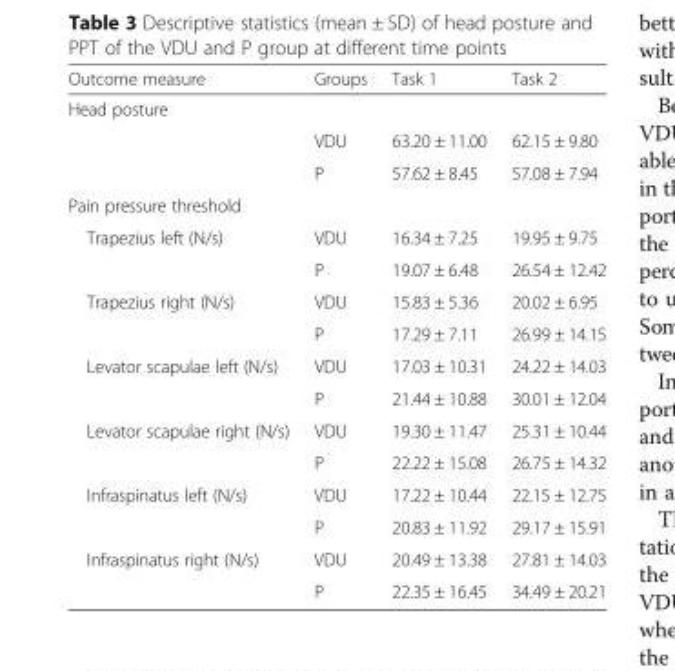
<table><thead><tr><td>Outcome measure</td><td>Groups</td><td>Task 1</td><td>Task 2</td></tr></thead><tbody><tr><td colspan="4">Head posture</td></tr><tr><td rowspan="2"></td><td>VDU</td><td>63.20 ± 11.00</td><td>62.15 ± 9.80</td></tr><tr><td>P</td><td>57.62 ± 8.45</td><td>57.08 ± 7.94</td></tr><tr><td colspan="4">Pain pressure threshold</td></tr><tr><td rowspan="2">Trapezius left (N/s)</td><td>VDU</td><td>16.34 ± 7.25</td><td>19.95 ± 9.75</td></tr><tr><td>P</td><td>19.07 ± 6.48</td><td>26.54 ± 12.42</td></tr><tr><td rowspan="2">Trapezius right (N/s)</td><td>VDU</td><td>15.83 ± 5.36</td><td>20.02 ± 6.95</td></tr><tr><td>P</td><td>17.29 ± 7.11</td><td>26.99 ± 14.15</td></tr><tr><td rowspan="2">Levator scapulae left (N/s)</td><td>VDU</td><td>17.03 ± 10.31</td><td>24.22 ± 14.03</td></tr><tr><td>P</td><td>21.44 ± 10.88</td><td>30.01 ± 12.04</td></tr><tr><td rowspan="2">Levator scapulae right (N/s)</td><td>VDU</td><td>19.30 ± 11.47</td><td>25.31 ± 10.44</td></tr><tr><td>P</td><td>22.22 ± 15.08</td><td>26.75 ± 14.32</td></tr><tr><td rowspan="2">Infraspinatus left (N/s)</td><td>VDU</td><td>17.22 ± 10.44</td><td>22.15 ± 12.75</td></tr><tr><td>P</td><td>20.83 ± 11.92</td><td>29.17 ± 15.91</td></tr><tr><td rowspan="2">Infraspinatus right (N/s)</td><td>VDU</td><td>20.49 ± 13.38</td><td>27.81 ± 14.03</td></tr><tr><td>P</td><td>22.35 ± 16.45</td><td>34.49 ± 20.21</td></tr></tbody></table>